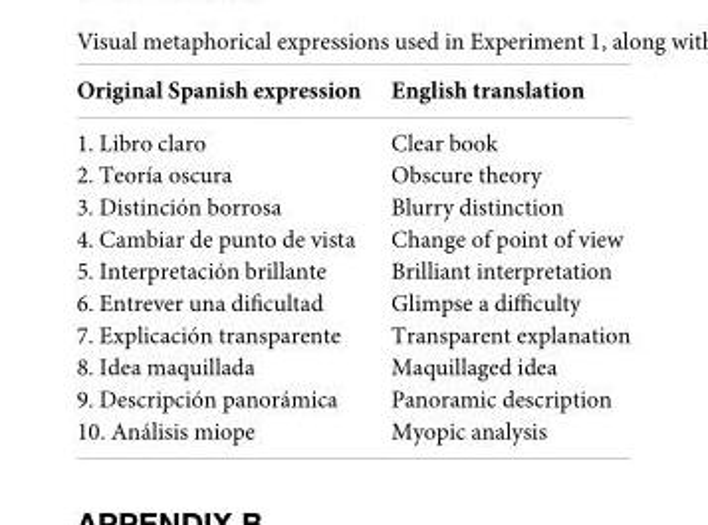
<table><thead><tr><td>Original Spanish expression</td><td>English translation</td></tr></thead><tbody><tr><td>1. Libro claro</td><td>Clear book</td></tr><tr><td>2. Teoría oscura</td><td>Obscure theory</td></tr><tr><td>3. Distinción borrosa</td><td>Blurry distinction</td></tr><tr><td>4. Cambiar de punto de vista</td><td>Change of point of view</td></tr><tr><td>5. Interpretación brillante</td><td>Brilliant interpretation</td></tr><tr><td>6. Entrever una dificultad</td><td>Glimpse a difficulty</td></tr><tr><td>7. Explicación transparente</td><td>Transparent explanation</td></tr><tr><td>8. Idea maquillada</td><td>Maquillaged idea</td></tr><tr><td>9. Descripción panorámica</td><td>Panoramic description</td></tr><tr><td>10. Análisis miope</td><td>Myopic analysis</td></tr></tbody></table>